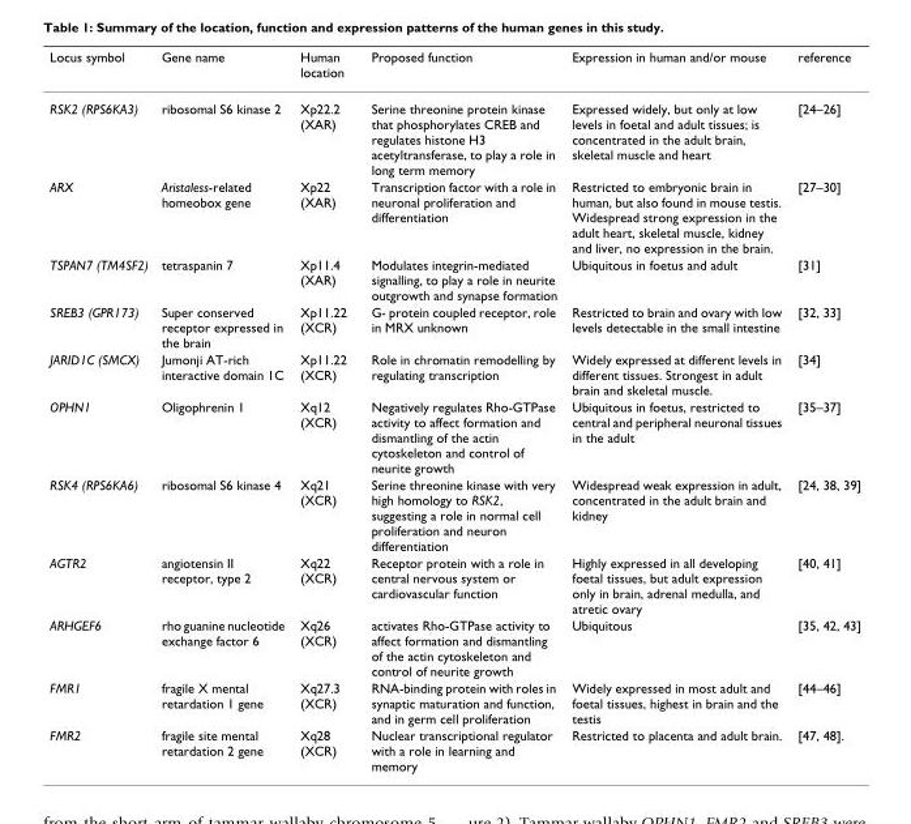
<table><thead><tr><td>Locus symbol</td><td>Gene name</td><td>Human location</td><td>Proposed function</td><td>Expression in human and/or mouse</td><td>reference</td></tr></thead><tbody><tr><td>RSK2 (RPS6KA3)</td><td>ribosomal S6 kinase 2</td><td>Xp22.2 (XAR)</td><td>Serine threonine protein kinase that phosphorylates CREB and regulates histone H3 acetyltransferase, to play a role in long term memory</td><td>Expressed widely, but only at low levels in foetal and adult tissues; is concentrated in the adult brain, skeletal muscle and heart</td><td>[24–26]</td></tr><tr><td>ARX</td><td>Aristaless-related homeobox gene</td><td>Xp22 (XAR)</td><td>Transcription factor with a role in neuronal proliferation and differentiation</td><td>Restricted to embryonic brain in human, but also found in mouse testis. Widespread strong expression in the adult heart, skeletal muscle, kidney and liver, no expression in the brain.</td><td>[27–30]</td></tr><tr><td>TSPAN7 (TM4SF2)</td><td>tetraspanin 7</td><td>Xp11.4 (XAR)</td><td>Modulates integrin-mediated signalling, to play a role in neurite outgrowth and synapse formation</td><td>Ubiquitous in foetus and adult</td><td>[31]</td></tr><tr><td>SREB3 (GPR173)</td><td>Super conserved receptor expressed in the brain</td><td>Xp11.22 (XCR)</td><td>G- protein coupled receptor, role in MRX unknown</td><td>Restricted to brain and ovary with low levels detectable in the small intestine</td><td>[32, 33]</td></tr><tr><td>JARID1C (SMCX)</td><td>Jumonji AT-rich interactive domain 1C</td><td>Xp11.22 (XCR)</td><td>Role in chromatin remodelling by regulating transcription</td><td>Widely expressed at different levels in different tissues. Strongest in adult brain and skeletal muscle.</td><td>[34]</td></tr><tr><td>OPHN1</td><td>Oligophrenin 1</td><td>Xq12 (XCR)</td><td>Negatively regulates Rho-GTPase activity to affect formation and dismantling of the actin cytoskeleton and control of neurite growth</td><td>Ubiquitous in foetus, restricted to central and peripheral neuronal tissues in the adult</td><td>[35–37]</td></tr><tr><td>RSK4 (RPS6KA6)</td><td>ribosomal S6 kinase 4</td><td>Xq21 (XCR)</td><td>Serine threonine kinase with very high homology to RSK2, suggesting a role in normal cell proliferation and neuron differentiation</td><td>Widespread weak expression in adult, concentrated in the adult brain and kidney</td><td>[24, 38, 39]</td></tr><tr><td>AGTR2</td><td>angiotensin II receptor, type 2</td><td>Xq22 (XCR)</td><td>Receptor protein with a role in central nervous system or cardiovascular function</td><td>Highly expressed in all developing foetal tissues, but adult expression only in brain, adrenal medulla, and atretic ovary</td><td>[40, 41]</td></tr><tr><td>ARHGEF6</td><td>rho guanine nucleotide exchange factor 6</td><td>Xq26 (XCR)</td><td>activates Rho-GTPase activity to affect formation and dismantling of the actin cytoskeleton and control of neurite growth</td><td>Ubiquitous</td><td>[35, 42, 43]</td></tr><tr><td>FMR1</td><td>fragile X mental retardation 1 gene</td><td>Xq27.3 (XCR)</td><td>RNA-binding protein with roles in synaptic maturation and function, and in germ cell proliferation</td><td>Widely expressed in most adult and foetal tissues, highest in brain and the testis</td><td>[44–46]</td></tr><tr><td>FMR2</td><td>fragile site mental retardation 2 gene</td><td>Xq28 (XCR)</td><td>Nuclear transcriptional regulator with a role in learning and memory</td><td>Restricted to placenta and adult brain.</td><td>[47, 48].</td></tr></tbody></table>